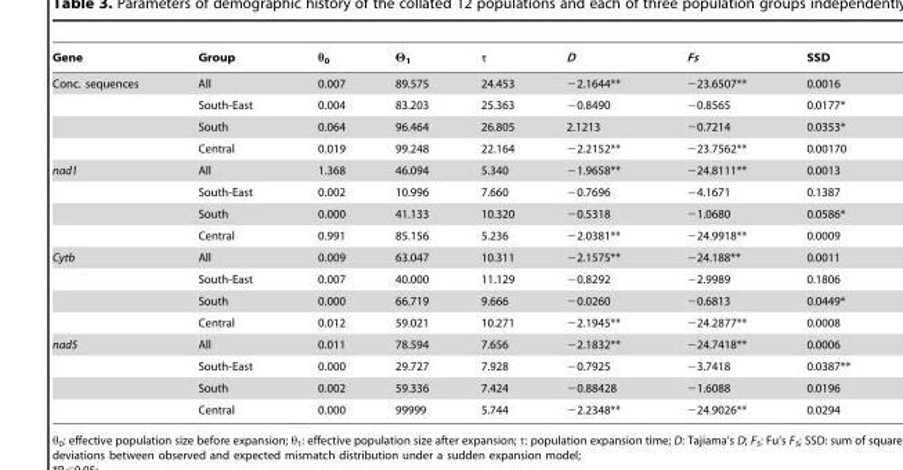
<table><thead><tr><td>Gene</td><td>Group</td><td>θ<sub>0</sub></td><td>Θ<sub>1</sub></td><td>τ</td><td>D</td><td>Fs</td><td>SSD</td></tr></thead><tbody><tr><td rowspan="4">Conc. sequences</td><td>All</td><td>0.007</td><td>89.575</td><td>24.453</td><td>−2.1644**</td><td>−23.6507**</td><td>0.0016</td></tr><tr><td>South-East</td><td>0.004</td><td>83.203</td><td>25.363</td><td>−0.8490</td><td>−0.8565</td><td>0.0177*</td></tr><tr><td>South</td><td>0.064</td><td>96.464</td><td>26.805</td><td>2.1213</td><td>−0.7214</td><td>0.0353*</td></tr><tr><td>Central</td><td>0.019</td><td>99.248</td><td>22.164</td><td>−2.2152**</td><td>−23.7562**</td><td>0.00170</td></tr><tr><td rowspan="4">nad1</td><td>All</td><td>1.368</td><td>46.094</td><td>5.340</td><td>−1.9658**</td><td>−24.8111**</td><td>0.0013</td></tr><tr><td>South-East</td><td>0.002</td><td>10.996</td><td>7.660</td><td>−0.7696</td><td>−4.1671</td><td>0.1387</td></tr><tr><td>South</td><td>0.000</td><td>41.133</td><td>10.320</td><td>−0.5318</td><td>−1.0680</td><td>0.0586*</td></tr><tr><td>Central</td><td>0.991</td><td>85.156</td><td>5.236</td><td>−2.0381**</td><td>−24.9918**</td><td>0.0009</td></tr><tr><td rowspan="4">Cytb</td><td>All</td><td>0.009</td><td>63.047</td><td>10.311</td><td>−2.1575**</td><td>−24.188**</td><td>0.0011</td></tr><tr><td>South-East</td><td>0.007</td><td>40.000</td><td>11.129</td><td>−0.8292</td><td>−2.9989</td><td>0.1806</td></tr><tr><td>South</td><td>0.000</td><td>66.719</td><td>9.666</td><td>−0.0260</td><td>−0.6813</td><td>0.0449*</td></tr><tr><td>Central</td><td>0.012</td><td>59.021</td><td>10.271</td><td>−2.1945**</td><td>−24.2877**</td><td>0.0008</td></tr><tr><td rowspan="4">nad5</td><td>All</td><td>0.011</td><td>78.594</td><td>7.656</td><td>−2.1832**</td><td>−24.7418**</td><td>0.0006</td></tr><tr><td>South-East</td><td>0.000</td><td>29.727</td><td>7.928</td><td>−0.7925</td><td>−3.7418</td><td>0.0387**</td></tr><tr><td>South</td><td>0.002</td><td>59.336</td><td>7.424</td><td>−0.88428</td><td>−1.6088</td><td>0.0196</td></tr><tr><td>Central</td><td>0.000</td><td>99999</td><td>5.744</td><td>−2.2348**</td><td>−24.9026**</td><td>0.0294</td></tr></tbody></table>